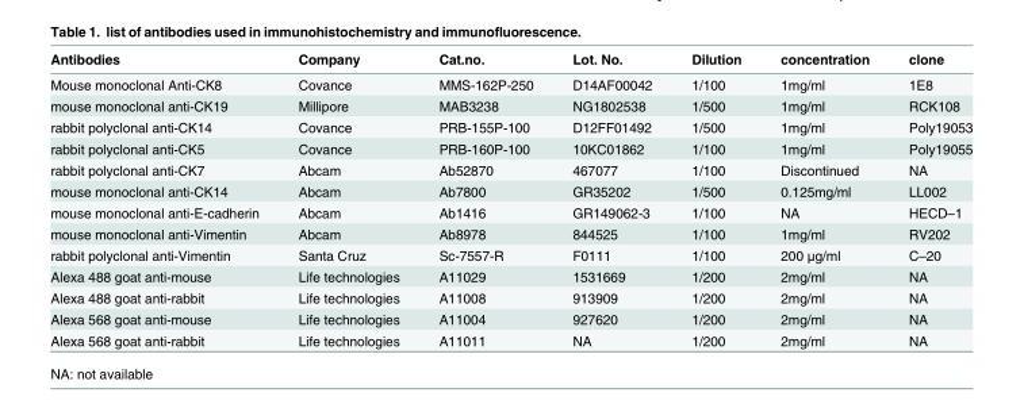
<table><thead><tr><td>Antibodies</td><td>Company</td><td>Cat.no.</td><td>Lot. No.</td><td>Dilution</td><td>concentration</td><td>clone</td></tr></thead><tbody><tr><td>Mouse monoclonal Anti-CK8</td><td>Covance</td><td>MMS-162P-250</td><td>D14AF00042</td><td>1/100</td><td>1mg/ml</td><td>1E8</td></tr><tr><td>mouse monoclonal anti-CK19</td><td>Millipore</td><td>MAB3238</td><td>NG1802538</td><td>1/500</td><td>1mg/ml</td><td>RCK108</td></tr><tr><td>rabbit polyclonal anti-CK14</td><td>Covance</td><td>PRB-155P-100</td><td>D12FF01492</td><td>1/500</td><td>1mg/ml</td><td>Poly19053</td></tr><tr><td>rabbit polyclonal anti-CK5</td><td>Covance</td><td>PRB-160P-100</td><td>10KC01862</td><td>1/100</td><td>1mg/ml</td><td>Poly19055</td></tr><tr><td>rabbit polyclonal anti-CK7</td><td>Abcam</td><td>Ab52870</td><td>467077</td><td>1/100</td><td>Discontinued</td><td>NA</td></tr><tr><td>mouse monoclonal anti-CK14</td><td>Abcam</td><td>Ab7800</td><td>GR35202</td><td>1/500</td><td>0.125mg/ml</td><td>LL002</td></tr><tr><td>mouse monoclonal anti-E-cadherin</td><td>Abcam</td><td>Ab1416</td><td>GR149062-3</td><td>1/100</td><td>NA</td><td>HECD–1</td></tr><tr><td>mouse monoclonal anti-Vimentin</td><td>Abcam</td><td>Ab8978</td><td>844525</td><td>1/100</td><td>1mg/ml</td><td>RV202</td></tr><tr><td>rabbit polyclonal anti-Vimentin</td><td>Santa Cruz</td><td>Sc-7557-R</td><td>F0111</td><td>1/100</td><td>200 μg/ml</td><td>C–20</td></tr><tr><td>Alexa 488 goat anti-mouse</td><td>Life technologies</td><td>A11029</td><td>1531669</td><td>1/200</td><td>2mg/ml</td><td>NA</td></tr><tr><td>Alexa 488 goat anti-rabbit</td><td>Life technologies</td><td>A11008</td><td>913909</td><td>1/200</td><td>2mg/ml</td><td>NA</td></tr><tr><td>Alexa 568 goat anti-mouse</td><td>Life technologies</td><td>A11004</td><td>927620</td><td>1/200</td><td>2mg/ml</td><td>NA</td></tr><tr><td>Alexa 568 goat anti-rabbit</td><td>Life technologies</td><td>A11011</td><td>NA</td><td>1/200</td><td>2mg/ml</td><td>NA</td></tr></tbody></table>